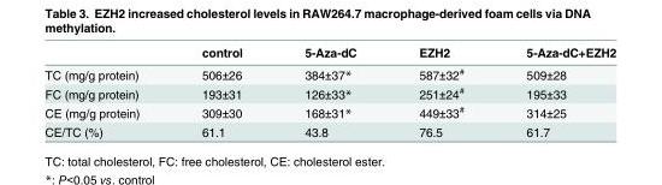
<table><thead><tr><td></td><td>control</td><td>5-Aza-dC</td><td>EZH2</td><td>5-Aza-dC+EZH2</td></tr></thead><tbody><tr><td>TC (mg/g protein)</td><td>506±26</td><td>384±37*</td><td>587±32<sup>#</sup></td><td>509±28</td></tr><tr><td>FC (mg/g protein)</td><td>193±31</td><td>126±33*</td><td>251±24<sup>#</sup></td><td>195±33</td></tr><tr><td>CE (mg/g protein)</td><td>309±30</td><td>168±31*</td><td>449±33<sup>#</sup></td><td>314±25</td></tr><tr><td>CE/TC (%)</td><td>61.1</td><td>43.8</td><td>76.5</td><td>61.7</td></tr></tbody></table>